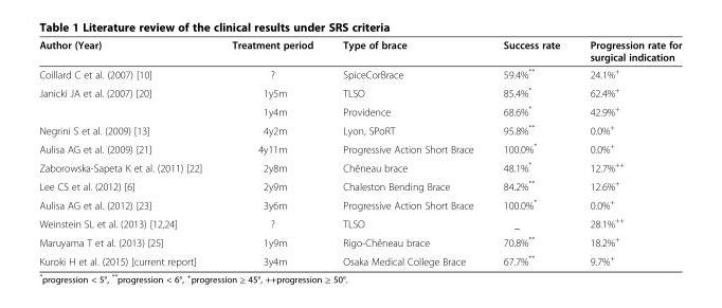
<table><thead><tr><td>Author (Year)</td><td>Treatment period</td><td>Type of brace</td><td>Success rate</td><td>Progression rate for surgical indication</td></tr></thead><tbody><tr><td>Coillard C et al. (2007) [10]</td><td>?</td><td>SpiceCorBrace</td><td>59.4%**</td><td>24.1%<sup>+</sup></td></tr><tr><td rowspan="2">Janicki JA et al. (2007) [20]</td><td>1y5m</td><td>TLSO</td><td>85.4%*</td><td>62.4%<sup>+</sup></td></tr><tr><td>1y4m</td><td>Providence</td><td>68.6%*</td><td>42.9%<sup>+</sup></td></tr><tr><td>Negrini S et al. (2009) [13]</td><td>4y2m</td><td>Lyon, SPoRT</td><td>95.8%**</td><td>0.0%<sup>+</sup></td></tr><tr><td>Aulisa AG et al. (2009) [21]</td><td>4y11m</td><td>Progressive Action Short Brace</td><td>100.0%*</td><td>0.0%<sup>+</sup></td></tr><tr><td>Zaborowska-Sapeta K et al. (2011) [22]</td><td>2y8m</td><td>Chêneau brace</td><td>48.1%*</td><td>12.7%<sup>++</sup></td></tr><tr><td>Lee CS et al. (2012) [6]</td><td>2y9m</td><td>Chaleston Bending Brace</td><td>84.2%**</td><td>12.6%<sup>+</sup></td></tr><tr><td>Aulisa AG et al. (2012) [23]</td><td>3y6m</td><td>Progressive Action Short Brace</td><td>100.0%*</td><td>0.0%<sup>+</sup></td></tr><tr><td>Weinstein SL et al. (2013) [12,24]</td><td>?</td><td>TLSO</td><td>_</td><td>28.1%<sup>++</sup></td></tr><tr><td>Maruyama T et al. (2013) [25]</td><td>1y9m</td><td>Rigo-Chêneau brace</td><td>70.8%**</td><td>18.2%<sup>+</sup></td></tr><tr><td>Kuroki H et al. (2015) [current report]</td><td>3y4m</td><td>Osaka Medical College Brace</td><td>67.7%**</td><td>9.7%<sup>+</sup></td></tr></tbody></table>